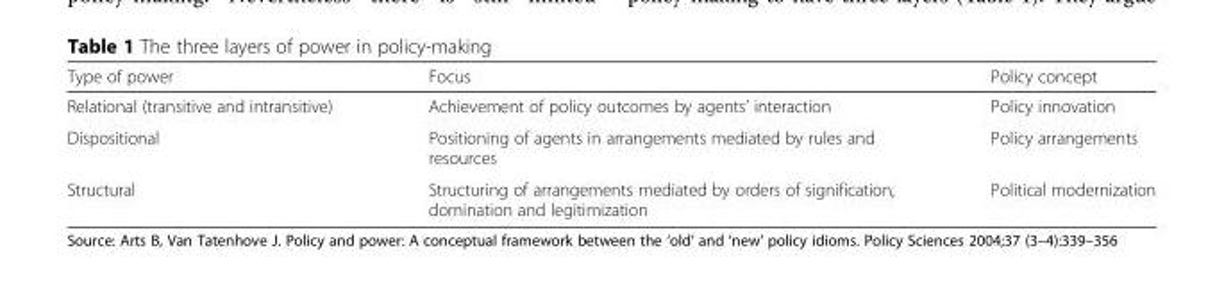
<table><thead><tr><td>Type of power</td><td>Focus</td><td>Policy concept</td></tr></thead><tbody><tr><td>Relational (transitive and intransitive)</td><td>Achievement of policy outcomes by agents’ interaction</td><td>Policy innovation</td></tr><tr><td>Dispositional</td><td>Positioning of agents in arrangements mediated by rules and resources</td><td>Policy arrangements</td></tr><tr><td>Structural</td><td>Structuring of arrangements mediated by orders of signification, domination and legitimization</td><td>Political modernization</td></tr></tbody></table>